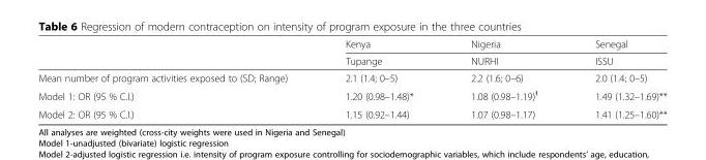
<table><thead><tr><td rowspan="2"></td><td rowspan="2">Kenya Tupange</td><td rowspan="2">Nigeria NURHI</td><td rowspan="2">Senegal ISSU</td></tr><tr></tr></thead><tbody><tr><td>Mean number of program activities exposed to (SD; Range)</td><td>2.1 (1.4; 0–5)</td><td>2.2 (1.6; 0–6)</td><td>2.0 (1.4; 0–5)</td></tr><tr><td>Model 1: OR (95 % C.I.)</td><td>1.20 (0.98–1.48)*</td><td>1.08 (0.98–1.19)<sup>Ɨ</sup></td><td>1.49 (1.32–1.69)**</td></tr><tr><td>Model 2: OR (95 % C.I.)</td><td>1.15 (0.92–1.44)</td><td>1.07 (0.98–1.17)</td><td>1.41 (1.25–1.60)**</td></tr></tbody></table>